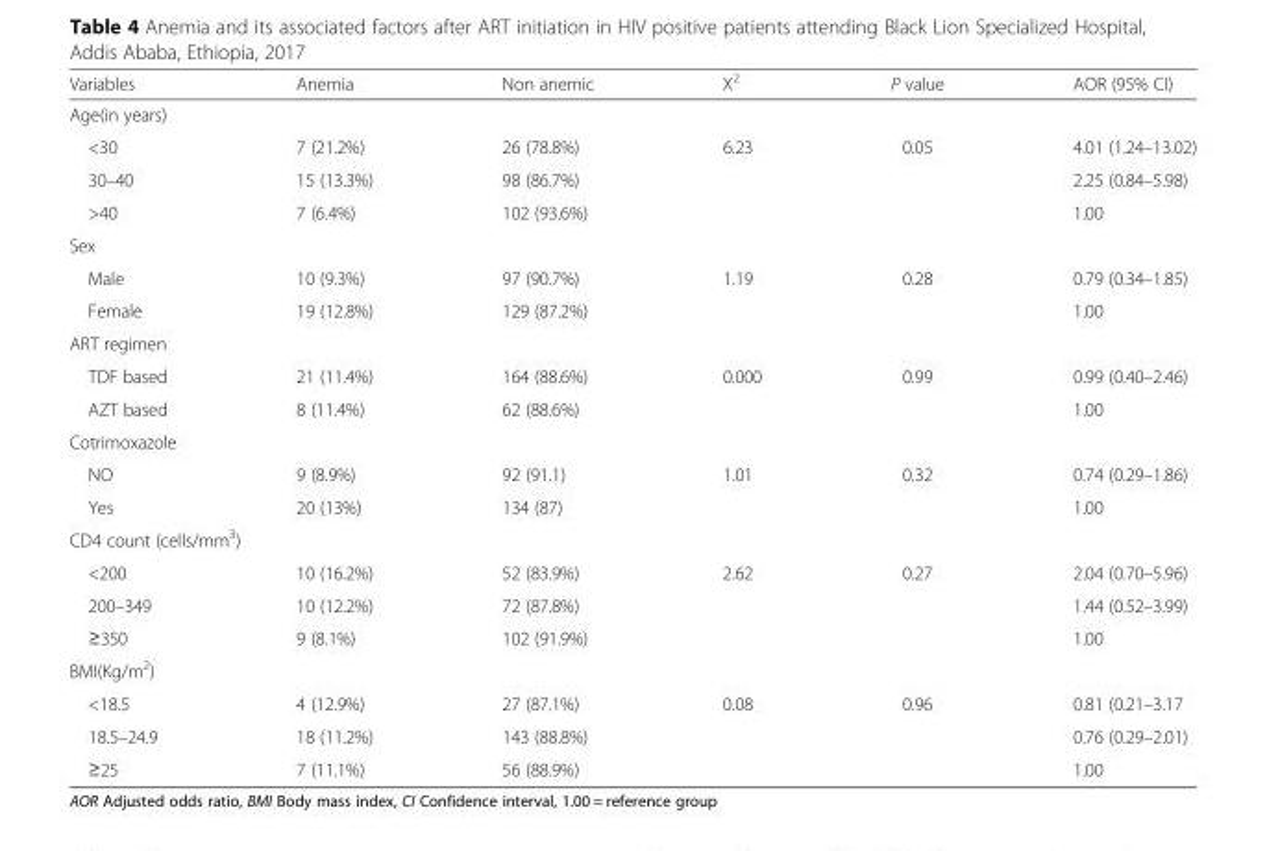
<table><thead><tr><td>Variables</td><td>Anemia</td><td>Non anemic</td><td>X<sup>2</sup></td><td>P value</td><td>AOR (95% CI)</td></tr></thead><tbody><tr><td colspan="6">Age(in years)</td></tr><tr><td>&lt;30</td><td>7 (21.2%)</td><td>26 (78.8%)</td><td>6.23</td><td>0.05</td><td>4.01 (1.24–13.02)</td></tr><tr><td>30–40</td><td>15 (13.3%)</td><td>98 (86.7%)</td><td></td><td></td><td>2.25 (0.84–5.98)</td></tr><tr><td>&gt;40</td><td>7 (6.4%)</td><td>102 (93.6%)</td><td></td><td></td><td>1.00</td></tr><tr><td colspan="6">Sex</td></tr><tr><td>Male</td><td>10 (9.3%)</td><td>97 (90.7%)</td><td>1.19</td><td>0.28</td><td>0.79 (0.34–1.85)</td></tr><tr><td>Female</td><td>19 (12.8%)</td><td>129 (87.2%)</td><td></td><td></td><td>1.00</td></tr><tr><td colspan="6">ART regimen</td></tr><tr><td>TDF based</td><td>21 (11.4%)</td><td>164 (88.6%)</td><td>0.000</td><td>0.99</td><td>0.99 (0.40–2.46)</td></tr><tr><td>AZT based</td><td>8 (11.4%)</td><td>62 (88.6%)</td><td></td><td></td><td>1.00</td></tr><tr><td colspan="6">Cotrimoxazole</td></tr><tr><td>NO</td><td>9 (8.9%)</td><td>92 (91.1)</td><td>1.01</td><td>0.32</td><td>0.74 (0.29–1.86)</td></tr><tr><td>Yes</td><td>20 (13%)</td><td>134 (87)</td><td></td><td></td><td>1.00</td></tr><tr><td colspan="6">CD4 count (cells/mm<sup>3</sup>)</td></tr><tr><td>&lt;200</td><td>10 (16.2%)</td><td>52 (83.9%)</td><td>2.62</td><td>0.27</td><td>2.04 (0.70–5.96)</td></tr><tr><td>200–349</td><td>10 (12.2%)</td><td>72 (87.8%)</td><td></td><td></td><td>1.44 (0.52–3.99)</td></tr><tr><td>≥350</td><td>9 (8.1%)</td><td>102 (91.9%)</td><td></td><td></td><td>1.00</td></tr><tr><td colspan="6">BMI(Kg/m<sup>2</sup>)</td></tr><tr><td>&lt;18.5</td><td>4 (12.9%)</td><td>27 (87.1%)</td><td>0.08</td><td>0.96</td><td>0.81 (0.21–3.17</td></tr><tr><td>18.5–24.9</td><td>18 (11.2%)</td><td>143 (88.8%)</td><td></td><td></td><td>0.76 (0.29–2.01)</td></tr><tr><td>≥25</td><td>7 (11.1%)</td><td>56 (88.9%)</td><td></td><td></td><td>1.00</td></tr></tbody></table>